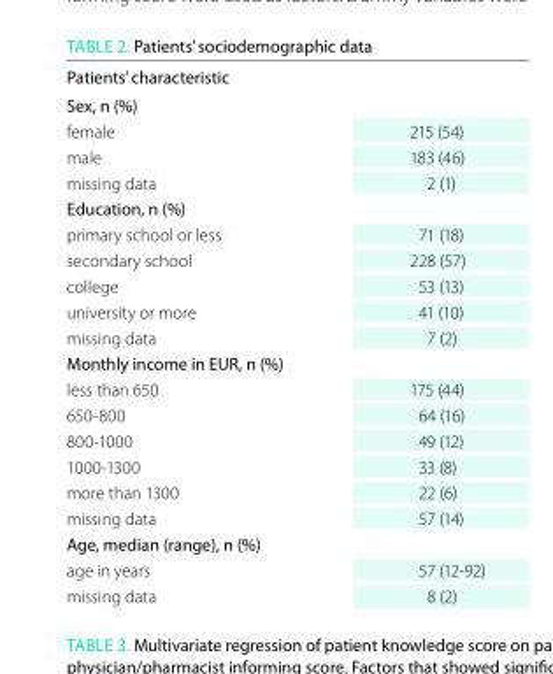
<table><thead><tr><td>Patients’ characteristic</td><td></td></tr></thead><tbody><tr><td colspan="2">sex, n (%)</td></tr><tr><td>female</td><td>215 (54)</td></tr><tr><td>male</td><td>183 (46)</td></tr><tr><td>missing data</td><td>2 (1)</td></tr><tr><td colspan="2">education, n (%)</td></tr><tr><td>primary school or less</td><td>71 (18)</td></tr><tr><td>secondary school</td><td>228 (57)</td></tr><tr><td>college</td><td>53 (13)</td></tr><tr><td>university or more</td><td>41 (10)</td></tr><tr><td>missing data</td><td>7 (2)</td></tr><tr><td colspan="2">Monthly income in eur, n (%)</td></tr><tr><td>less than 650</td><td>175 (44)</td></tr><tr><td>650-800</td><td>64 (16)</td></tr><tr><td>800-1000</td><td>49 (12)</td></tr><tr><td>1000-1300</td><td>33 (8)</td></tr><tr><td>more than 1300</td><td>22 (6)</td></tr><tr><td>missing data</td><td>57 (14)</td></tr><tr><td colspan="2">age, median (range), n (%)</td></tr><tr><td>age in years</td><td>57 (12-92)</td></tr><tr><td>missing data</td><td>8 (2)</td></tr></tbody></table>